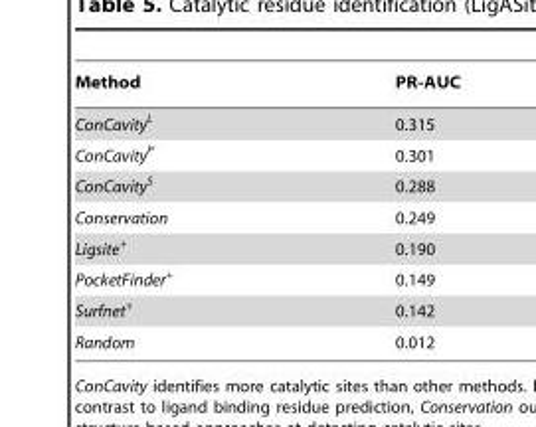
<table><thead><tr><td>Method</td><td>PR-AUC</td></tr></thead><tbody><tr><td>ConCavity<sup>L</sup></td><td>0.315</td></tr><tr><td>ConCavity<sup>P</sup></td><td>0.301</td></tr><tr><td>ConCavity<sup>S</sup></td><td>0.288</td></tr><tr><td>Conservation</td><td>0.249</td></tr><tr><td>Ligsite<sup>+</sup></td><td>0.190</td></tr><tr><td>PocketFinder<sup>+</sup></td><td>0.149</td></tr><tr><td>Surfnet<sup>+</sup></td><td>0.142</td></tr><tr><td>Random</td><td>0.012</td></tr></tbody></table>